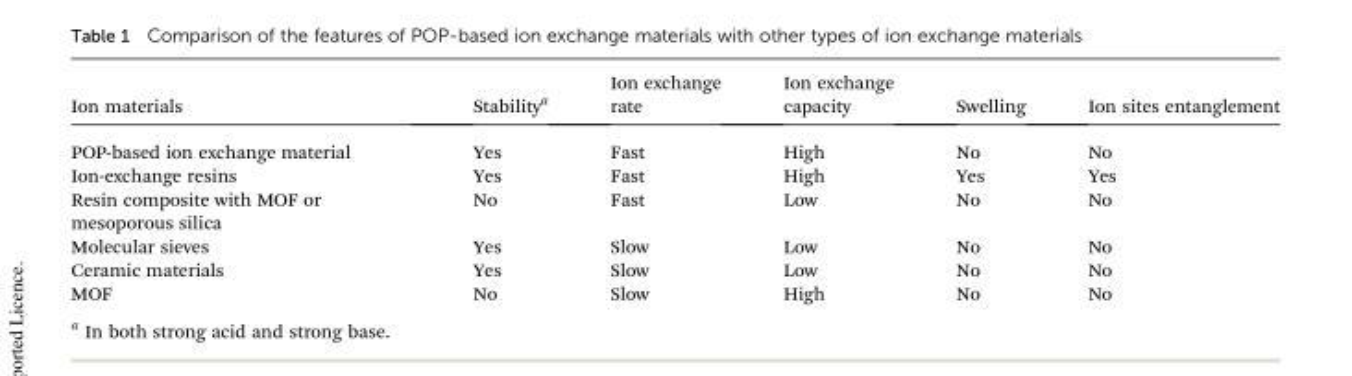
<table><thead><tr><td>Ion materials</td><td>Stability<sup>a</sup></td><td>Ion exchange rate</td><td>Ion exchange capacity</td><td>Swelling</td><td>Ion sites entanglement</td></tr></thead><tbody><tr><td>POP-based ion exchange material</td><td>Yes</td><td>Fast</td><td>High</td><td>No</td><td>No</td></tr><tr><td>Ion-exchange resins</td><td>Yes</td><td>Fast</td><td>High</td><td>Yes</td><td>Yes</td></tr><tr><td>Resin composite with MOF or mesoporous silica</td><td>No</td><td>Fast</td><td>Low</td><td>No</td><td>No</td></tr><tr><td>Molecular sieves</td><td>Yes</td><td>Slow</td><td>Low</td><td>No</td><td>No</td></tr><tr><td>Ceramic materials</td><td>Yes</td><td>Slow</td><td>Low</td><td>No</td><td>No</td></tr><tr><td>MOF</td><td>No</td><td>Slow</td><td>High</td><td>No</td><td>No</td></tr></tbody></table>